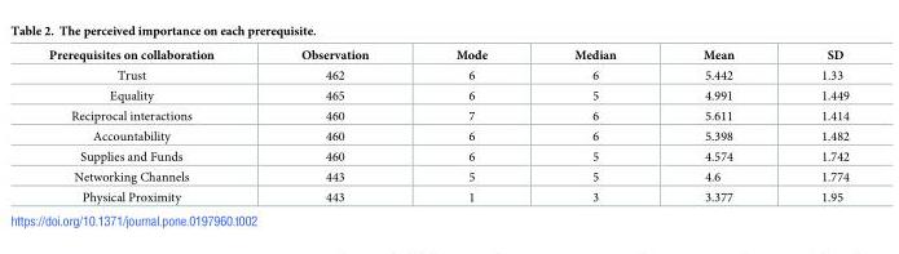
<table><thead><tr><td>Prerequisites on collaboration</td><td>Observation</td><td>Mode</td><td>Median</td><td>Mean</td><td>SD</td></tr></thead><tbody><tr><td>Trust</td><td>462</td><td>6</td><td>6</td><td>5.442</td><td>1.33</td></tr><tr><td>Equality</td><td>465</td><td>6</td><td>5</td><td>4.991</td><td>1.449</td></tr><tr><td>Reciprocal interactions</td><td>460</td><td>7</td><td>6</td><td>5.611</td><td>1.414</td></tr><tr><td>Accountability</td><td>460</td><td>6</td><td>6</td><td>5.398</td><td>1.482</td></tr><tr><td>Supplies and Funds</td><td>460</td><td>6</td><td>5</td><td>4.574</td><td>1.742</td></tr><tr><td>Networking Channels</td><td>443</td><td>5</td><td>5</td><td>4.6</td><td>1.774</td></tr><tr><td>Physical Proximity</td><td>443</td><td>1</td><td>3</td><td>3.377</td><td>1.95</td></tr></tbody></table>